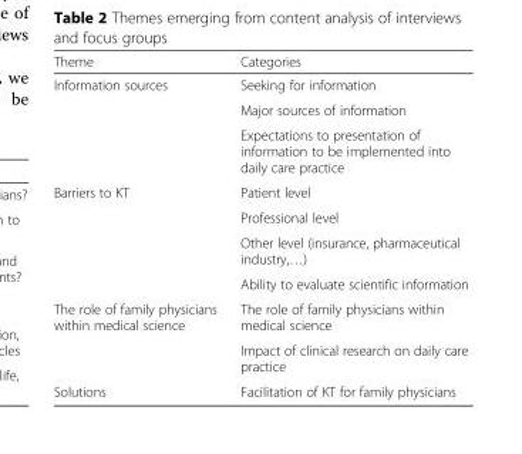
<table><thead><tr><td>Theme</td><td>Categories</td></tr></thead><tbody><tr><td rowspan="3">Information sources</td><td>Seeking for information</td></tr><tr><td>Major sources of information</td></tr><tr><td>Expectations to presentation of information to be implemented into daily care practice</td></tr><tr><td rowspan="4">Barriers to KT</td><td>Patient level</td></tr><tr><td>Professional level</td></tr><tr><td>Other level (insurance, pharmaceutical industry,…)</td></tr><tr><td>Ability to evaluate scientific information</td></tr><tr><td rowspan="2">The role of family physicians within medical science</td><td>The role of family physicians within medical science</td></tr><tr><td>Impact of clinical research on daily care practice</td></tr><tr><td>Solutions</td><td>Facilitation of KT for family physicians</td></tr></tbody></table>